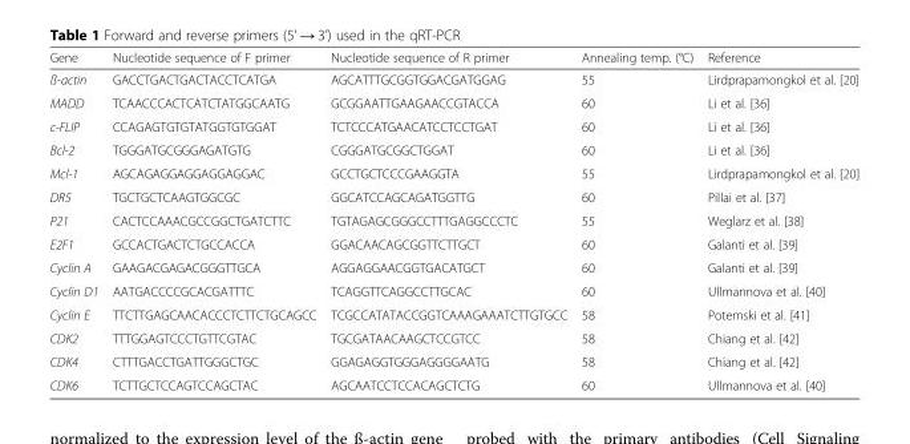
<table><thead><tr><td>Gene</td><td>Nucleotide sequence of F primer</td><td>Nucleotide sequence of R primer</td><td>Annealing temp. (°C)</td><td>Reference</td></tr></thead><tbody><tr><td>ß-actin</td><td>GACCTGACTGACTACCTCATGA</td><td>AGCATTTGCGGTGGACGATGGAG</td><td>55</td><td>Lirdprapamongkol et al. [20]</td></tr><tr><td>MADD</td><td>TCAACCCACTCATCTATGGCAATG</td><td>GCGGAATTGAAGAACCGTACCA</td><td>60</td><td>Li et al. [36]</td></tr><tr><td>c-FLIP</td><td>CCAGAGTGTGTATGGTGTGGAT</td><td>TCTCCCATGAACATCCTCCTGAT</td><td>60</td><td>Li et al. [36]</td></tr><tr><td>Bcl-2</td><td>TGGGATGCGGGAGATGTG</td><td>CGGGATGCGGCTGGAT</td><td>60</td><td>Li et al. [36]</td></tr><tr><td>Mcl-1</td><td>AGCAGAGGAGGAGGAGGAC</td><td>GCCTGCTCCCGAAGGTA</td><td>55</td><td>Lirdprapamongkol et al. [20]</td></tr><tr><td>DR5</td><td>TGCTGCTCAAGTGGCGC</td><td>GGCATCCAGCAGATGGTTG</td><td>60</td><td>Pillai et al. [37]</td></tr><tr><td>P21</td><td>CACTCCAAACGCCGGCTGATCTTC</td><td>TGTAGAGCGGGCCTTTGAGGCCCTC</td><td>55</td><td>Weglarz et al. [38]</td></tr><tr><td>E2F1</td><td>GCCACTGACTCTGCCACCA</td><td>GGACAACAGCGGTTCTTGCT</td><td>60</td><td>Galanti et al. [39]</td></tr><tr><td>Cyclin A</td><td>GAAGACGAGACGGGTTGCA</td><td>AGGAGGAACGGTGACATGCT</td><td>60</td><td>Galanti et al. [39]</td></tr><tr><td>Cyclin D1</td><td>AATGACCCCGCACGATTTC</td><td>TCAGGTTCAGGCCTTGCAC</td><td>60</td><td>Ullmannova et al. [40]</td></tr><tr><td>Cyclin E</td><td>TTCTTGAGCAACACCCTCTTCTGCAGCC</td><td>TCGCCATATACCGGTCAAAGAAATCTTGTGCC</td><td>58</td><td>Potemski et al. [41]</td></tr><tr><td>CDK2</td><td>TTTGGAGTCCCTGTTCGTAC</td><td>TGCGATAACAAGCTCCGTCC</td><td>58</td><td>Chiang et al. [42]</td></tr><tr><td>CDK4</td><td>CTTTGACCTGATTGGGCTGC</td><td>GGAGAGGTGGGAGGGGAATG</td><td>58</td><td>Chiang et al. [42]</td></tr><tr><td>CDK6</td><td>TCTTGCTCCAGTCCAGCTAC</td><td>AGCAATCCTCCACAGCTCTG</td><td>60</td><td>Ullmannova et al. [40]</td></tr></tbody></table>